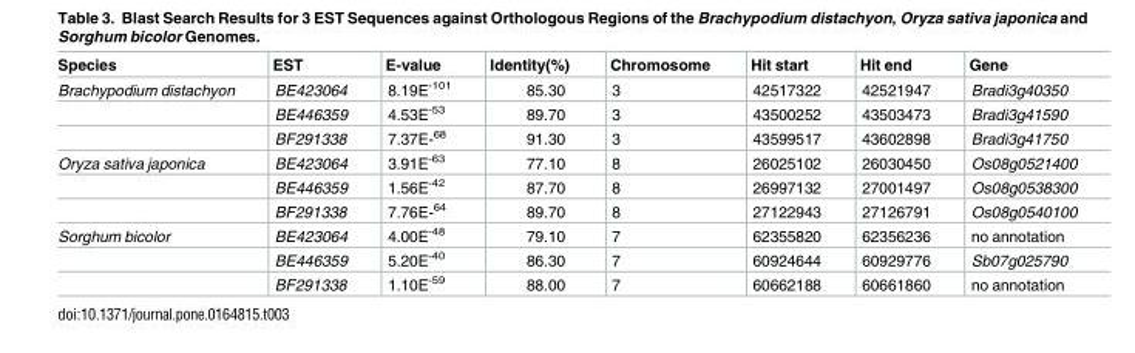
<table><thead><tr><td>Species</td><td>EST</td><td>E-value</td><td>Identity(%)</td><td>Chromosome</td><td>Hit start</td><td>Hit end</td><td>Gene</td></tr></thead><tbody><tr><td rowspan="3">Brachypodium distachyon</td><td>BE423064</td><td>8.19E<sup>-101</sup></td><td>85.30</td><td>3</td><td>42517322</td><td>42521947</td><td>Bradi3g40350</td></tr><tr><td>BE446359</td><td>4.53E<sup>-53</sup></td><td>89.70</td><td>3</td><td>43500252</td><td>43503473</td><td>Bradi3g41590</td></tr><tr><td>BF291338</td><td>7.37E-<sup>68</sup></td><td>91.30</td><td>3</td><td>43599517</td><td>43602898</td><td>Bradi3g41750</td></tr><tr><td rowspan="3">Oryza sativa japonica</td><td>BE423064</td><td>3.91E<sup>-63</sup></td><td>77.10</td><td>8</td><td>26025102</td><td>26030450</td><td>Os08g0521400</td></tr><tr><td>BE446359</td><td>1.56E<sup>-42</sup></td><td>87.70</td><td>8</td><td>26997132</td><td>27001497</td><td>Os08g0538300</td></tr><tr><td>BF291338</td><td>7.76E-<sup>64</sup></td><td>89.70</td><td>8</td><td>27122943</td><td>27126791</td><td>Os08g0540100</td></tr><tr><td rowspan="3">Sorghum bicolor</td><td>BE423064</td><td>4.00E<sup>-48</sup></td><td>79.10</td><td>7</td><td>62355820</td><td>62356236</td><td>no annotation</td></tr><tr><td>BE446359</td><td>5.20E<sup>-40</sup></td><td>86.30</td><td>7</td><td>60924644</td><td>60929776</td><td>Sb07g025790</td></tr><tr><td>BF291338</td><td>1.10E<sup>-59</sup></td><td>88.00</td><td>7</td><td>60662188</td><td>60661860</td><td>no annotation</td></tr></tbody></table>